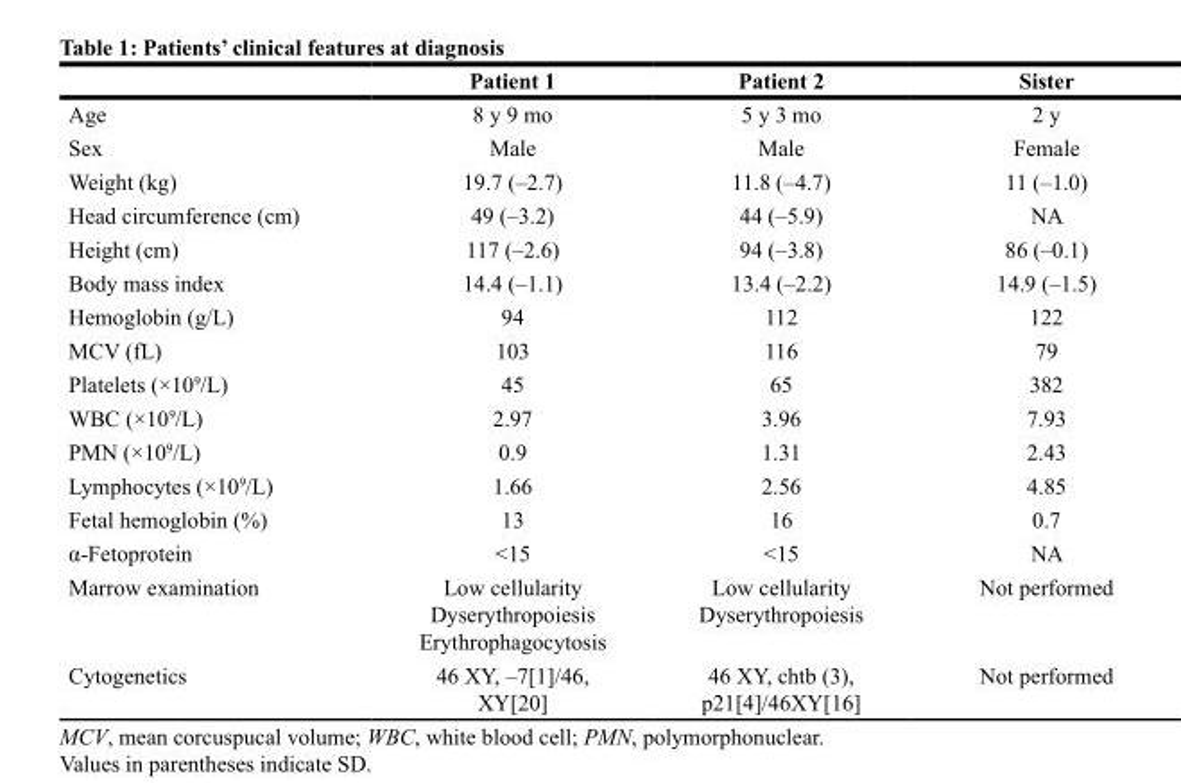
<table><thead><tr><td></td><td>Patient 1</td><td>Patient 2</td><td>Sister</td></tr></thead><tbody><tr><td>Age</td><td>8 y 9 mo</td><td>5 y 3 mo</td><td>2 y</td></tr><tr><td>Sex</td><td>Male</td><td>Male</td><td>Female</td></tr><tr><td>Weight (kg)</td><td>19.7 (–2.7)</td><td>11.8 (–4.7)</td><td>11 (–1.0)</td></tr><tr><td>Head circumference (cm)</td><td>49 (–3.2)</td><td>44 (–5.9)</td><td>NA</td></tr><tr><td>Height (cm)</td><td>117 (–2.6)</td><td>94 (–3.8)</td><td>86 (–0.1)</td></tr><tr><td>Body mass index</td><td>14.4 (–1.1)</td><td>13.4 (–2.2)</td><td>14.9 (–1.5)</td></tr><tr><td>Hemoglobin (g/L)</td><td>94</td><td>112</td><td>122</td></tr><tr><td>MCV (fL)</td><td>103</td><td>116</td><td>79</td></tr><tr><td>Platelets (×10<sup>9</sup>/L)</td><td>45</td><td>65</td><td>382</td></tr><tr><td>WBC (×10<sup>9</sup>/L)</td><td>2.97</td><td>3.96</td><td>7.93</td></tr><tr><td>PMN (×10<sup>9</sup>/L)</td><td>0.9</td><td>1.31</td><td>2.43</td></tr><tr><td>Lymphocytes (×10<sup>9</sup>/L)</td><td>1.66</td><td>2.56</td><td>4.85</td></tr><tr><td>Fetal hemoglobin (%)</td><td>13</td><td>16</td><td>0.7</td></tr><tr><td>α-Fetoprotein</td><td>&lt;15</td><td>&lt;15</td><td>NA</td></tr><tr><td>Marrow examination</td><td>Low cellularity Dyserythropoiesis Erythrophagocytosis</td><td>Low cellularity Dyserythropoiesis</td><td>Not performed</td></tr><tr><td>Cytogenetics</td><td>46 XY, –7[1]/46, XY[20]</td><td>46 XY, chtb (3), p21[4]/46XY[16]</td><td>Not performed</td></tr></tbody></table>